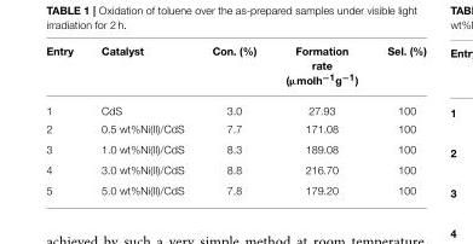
<table><thead><tr><td>Entry</td><td>Catalyst</td><td>Con. (%)</td><td>Formation rate (µmolh<sup>−1</sup>g<sup>−1</sup>)</td><td>Sel. (%)</td></tr></thead><tbody><tr><td>1</td><td>CdS</td><td>3.0</td><td>27.93</td><td>100</td></tr><tr><td>2</td><td>0.5 wt%Ni(II)/CdS</td><td>7.7</td><td>171.08</td><td>100</td></tr><tr><td>3</td><td>1.0 wt%Ni(II)/CdS</td><td>8.3</td><td>189.08</td><td>100</td></tr><tr><td>4</td><td>3.0 wt%Ni(II)/CdS</td><td>8.8</td><td>216.70</td><td>100</td></tr><tr><td>5</td><td>5.0 wt%Ni(II)/CdS</td><td>7.8</td><td>179.20</td><td>100</td></tr></tbody></table>